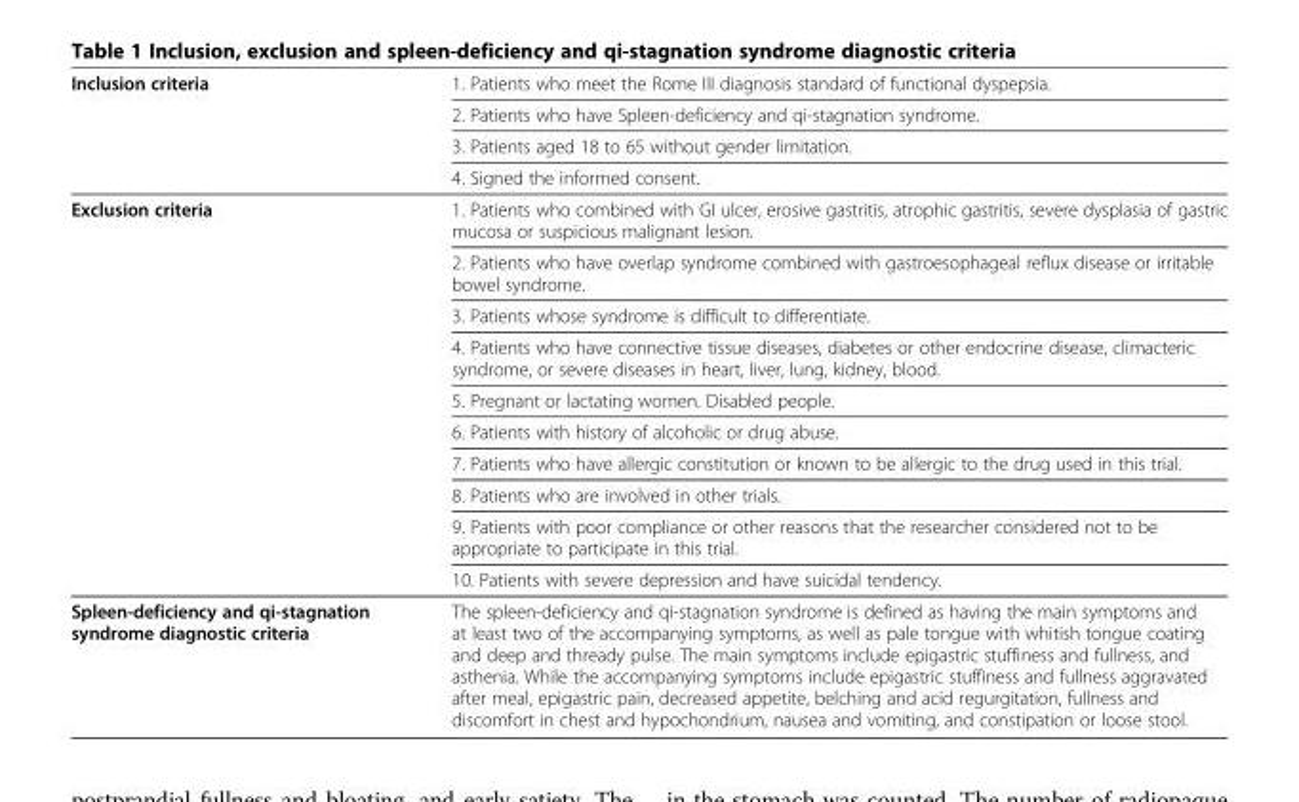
<table><tbody><tr><td rowspan="4">Inclusion criteria</td><td>1. Patients who meet the Rome III diagnosis standard of functional dyspepsia.</td></tr><tr><td>2. Patients who have Spleen-deficiency and qi-stagnation syndrome.</td></tr><tr><td>3. Patients aged 18 to 65 without gender limitation.</td></tr><tr><td>4. Signed the informed consent.</td></tr><tr><td rowspan="10">Exclusion criteria</td><td>1. Patients who combined with GI ulcer, erosive gastritis, atrophic gastritis, severe dysplasia of gastric mucosa or suspicious malignant lesion.</td></tr><tr><td>2. Patients who have overlap syndrome combined with gastroesophageal reflux disease or irritable bowel syndrome.</td></tr><tr><td>3. Patients whose syndrome is difficult to differentiate.</td></tr><tr><td>4. Patients who have connective tissue diseases, diabetes or other endocrine disease, climacteric syndrome, or severe diseases in heart, liver, lung, kidney, blood.</td></tr><tr><td>5. Pregnant or lactating women. Disabled people.</td></tr><tr><td>6. Patients with history of alcoholic or drug abuse.</td></tr><tr><td>7. Patients who have allergic constitution or known to be allergic to the drug used in this trial.</td></tr><tr><td>8. Patients who are involved in other trials.</td></tr><tr><td>9. Patients with poor compliance or other reasons that the researcher considered not to be appropriate to participate in this trial.</td></tr><tr><td>10. Patients with severe depression and have suicidal tendency.</td></tr><tr><td>Spleen-deficiency and qi-stagnation syndrome diagnostic criteria</td><td>The spleen-deficiency and qi-stagnation syndrome is defined as having the main symptoms and at least two of the accompanying symptoms, as well as pale tongue with whitish tongue coating and deep and thready pulse. The main symptoms include epigastric stuffiness and fullness, and asthenia. While the accompanying symptoms include epigastric stuffiness and fullness aggravated after meal, epigastric pain, decreased appetite, belching and acid regurgitation, fullness and discomfort in chest and hypochondrium, nausea and vomiting, and constipation or loose stool.</td></tr></tbody></table>